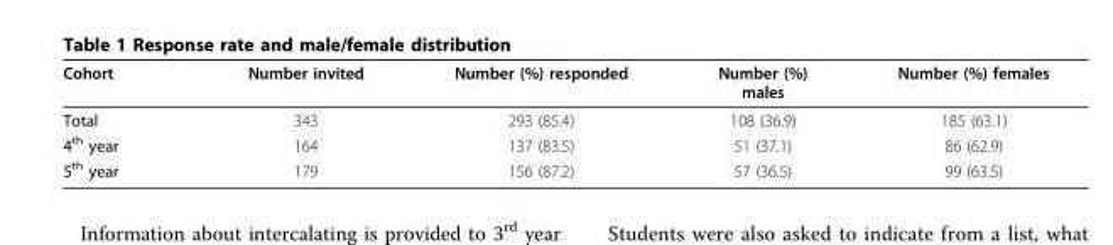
<table><thead><tr><td>Cohort</td><td>Number invited</td><td>Number (%) responded</td><td>Number (%) males</td><td>Number (%) females</td></tr></thead><tbody><tr><td>Total</td><td>343</td><td>293 (85.4)</td><td>108 (36.9)</td><td>185 (63.1)</td></tr><tr><td>4<sup>th</sup> year</td><td>164</td><td>137 (83.5)</td><td>51 (37.1)</td><td>86 (62.9)</td></tr><tr><td>5<sup>th</sup> year</td><td>179</td><td>156 (87.2)</td><td>57 (36.5)</td><td>99 (63.5)</td></tr></tbody></table>